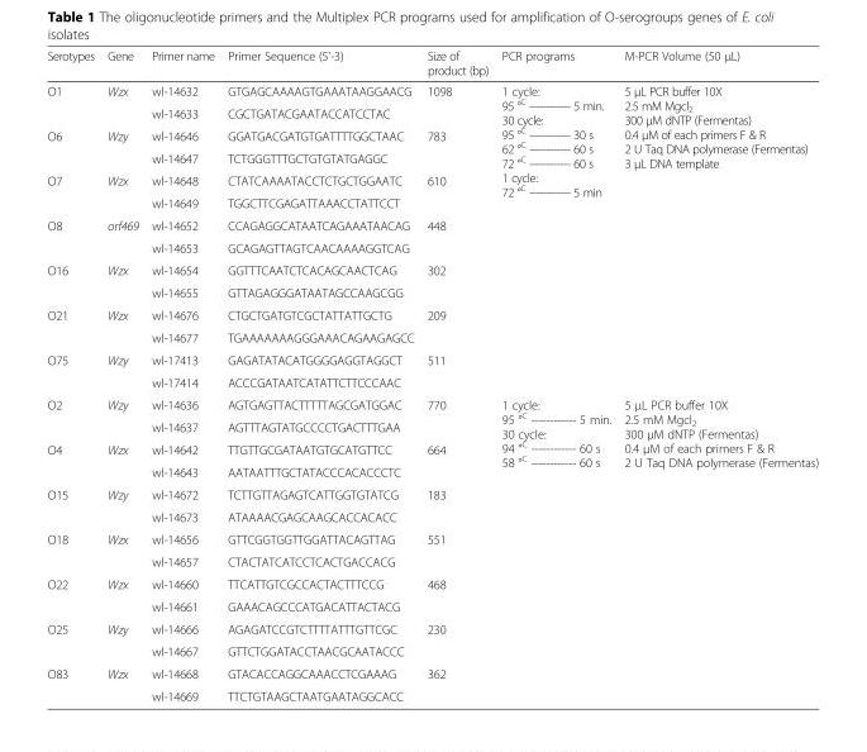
<table><thead><tr><td>Serotypes</td><td>Gene</td><td>Primer name</td><td>Primer Sequence (5&#x27;-3)</td><td>Size of product (bp)</td><td>PCR programs</td><td>M-PCR Volume (50 μL)</td></tr></thead><tbody><tr><td rowspan="2">O1</td><td rowspan="2">Wzx</td><td>wl-14632</td><td>GTGAGCAAAAGTGAAATAAGGAACG</td><td rowspan="2">1098</td><td rowspan="14">1 cycle: 95 °<sup>C</sup> ------------ 5 min. 30 cycle: 95 °<sup>C</sup> ------------ 30 s 62 °<sup>C</sup> ------------ 60 s 72 °<sup>C</sup> ------------ 60 s 1 cycle: 72 °<sup>C</sup> ------------ 5 min</td><td rowspan="14">5 μL PCR buffer 10X 2.5 mM Mgcl<sub>2</sub> 300 μM dNTP (Fermentas) 0.4 μM of each primers F &amp; R 2 U Taq DNA polymerase (Fermentas) 3 μL DNA template</td></tr><tr><td>wl-14633</td><td>CGCTGATACGAATACCATCCTAC</td></tr><tr><td rowspan="2">O6</td><td rowspan="2">Wzy</td><td>wl-14646</td><td>GGATGACGATGTGATTTTGGCTAAC</td><td rowspan="2">783</td></tr><tr><td>wl-14647</td><td>TCTGGGTTTGCTGTGTATGAGGC</td></tr><tr><td rowspan="2">O7</td><td rowspan="2">Wzx</td><td>wl-14648</td><td>CTATCAAAATACCTCTGCTGGAATC</td><td rowspan="2">610</td></tr><tr><td>wl-14649</td><td>TGGCTTCGAGATTAAACCTATTCCT</td></tr><tr><td rowspan="2">O8</td><td rowspan="2">orf469</td><td>wl-14652</td><td>CCAGAGGCATAATCAGAAATAACAG</td><td rowspan="2">448</td></tr><tr><td>wl-14653</td><td>GCAGAGTTAGTCAACAAAAGGTCAG</td></tr><tr><td rowspan="2">O16</td><td rowspan="2">Wzx</td><td>wl-14654</td><td>GGTTTCAATCTCACAGCAACTCAG</td><td rowspan="2">302</td></tr><tr><td>wl-14655</td><td>GTTAGAGGGATAATAGCCAAGCGG</td></tr><tr><td rowspan="2">O21</td><td rowspan="2">Wzx</td><td>wl-14676</td><td>CTGCTGATGTCGCTATTATTGCTG</td><td rowspan="2">209</td></tr><tr><td>wl-14677</td><td>TGAAAAAAAGGGAAACAGAAGAGCC</td></tr><tr><td rowspan="2">O75</td><td rowspan="2">Wzy</td><td>wl-17413</td><td>GAGATATACATGGGGAGGTAGGCT</td><td rowspan="2">511</td></tr><tr><td>wl-17414</td><td>ACCCGATAATCATATTCTTCCCAAC</td></tr><tr><td rowspan="2">O2</td><td rowspan="2">Wzy</td><td>wl-14636</td><td>AGTGAGTTACTTTTTAGCGATGGAC</td><td rowspan="2">770</td><td rowspan="14">1 cycle: 95 °<sup>C</sup> ------------ 5 min. 30 cycle: 94 °<sup>C</sup> ------------ 60 s 58 °<sup>C</sup> ------------ 60 s</td><td rowspan="14">5 μL PCR buffer 10X 2.5 mM Mgcl<sub>2</sub> 300 μM dNTP (Fermentas) 0.4 μM of each primers F &amp; R 2 U Taq DNA polymerase (Fermentas)</td></tr><tr><td>wl-14637</td><td>AGTTTAGTATGCCCCTGACTTTGAA</td></tr><tr><td rowspan="2">O4</td><td rowspan="2">Wzx</td><td>wl-14642</td><td>TTGTTGCGATAATGTGCATGTTCC</td><td rowspan="2">664</td></tr><tr><td>wl-14643</td><td>AATAATTTGCTATACCCACACCCTC</td></tr><tr><td rowspan="2">O15</td><td rowspan="2">Wzy</td><td>wl-14672</td><td>TCTTGTTAGAGTCATTGGTGTATCG</td><td rowspan="2">183</td></tr><tr><td>wl-14673</td><td>ATAAAACGAGCAAGCACCACACC</td></tr><tr><td rowspan="2">O18</td><td rowspan="2">Wzx</td><td>wl-14656</td><td>GTTCGGTGGTTGGATTACAGTTAG</td><td rowspan="2">551</td></tr><tr><td>wl-14657</td><td>CTACTATCATCCTCACTGACCACG</td></tr><tr><td rowspan="2">O22</td><td rowspan="2">Wzx</td><td>wl-14660</td><td>TTCATTGTCGCCACTACTTTCCG</td><td rowspan="2">468</td></tr><tr><td>wl-14661</td><td>GAAACAGCCCATGACATTACTACG</td></tr><tr><td rowspan="2">O25</td><td rowspan="2">Wzy</td><td>wl-14666</td><td>AGAGATCCGTCTTTTATTTGTTCGC</td><td rowspan="2">230</td></tr><tr><td>wl-14667</td><td>GTTCTGGATACCTAACGCAATACCC</td></tr><tr><td rowspan="2">O83</td><td rowspan="2">Wzx</td><td>wl-14668</td><td>GTACACCAGGCAAACCTCGAAAG</td><td rowspan="2">362</td></tr><tr><td>wl-14669</td><td>TTCTGTAAGCTAATGAATAGGCACC</td></tr></tbody></table>